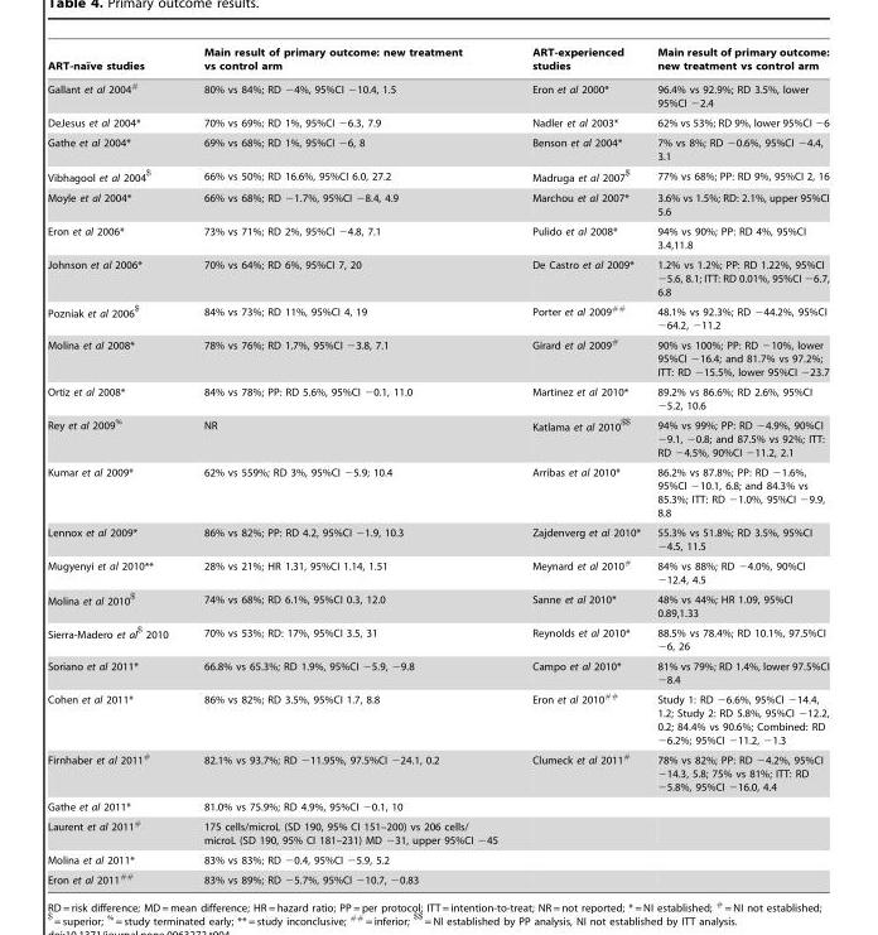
<table><thead><tr><td>ART-naı¨ve studies</td><td>Main result of primary outcome: new treatment vs control arm</td><td>ART-experienced studies</td><td>Main result of primary outcome: new treatment vs control arm</td></tr></thead><tbody><tr><td>Gallant et al 2004<sup>#</sup></td><td>80% vs 84%; RD −4%, 95%CI −10.4, 1.5</td><td>Eron et al 2000*</td><td>96.4% vs 92.9%; RD 3.5%, lower 95%CI −2.4</td></tr><tr><td>DeJesus et al 2004*</td><td>70% vs 69%; RD 1%, 95%CI −6.3, 7.9</td><td>Nadler et al 2003*</td><td>62% vs 53%; RD 9%, lower 95%CI −6</td></tr><tr><td>Gathe et al 2004*</td><td>69% vs 68%; RD 1%, 95%CI −6, 8</td><td>Benson et al 2004*</td><td>7% vs 8%; RD −0.6%, 95%CI −4.4, 3.1</td></tr><tr><td>Vibhagool et al 2004<sup>$</sup></td><td>66% vs 50%; RD 16.6%, 95%CI 6.0, 27.2</td><td>Madruga et al 2007<sup>$</sup></td><td>77% vs 68%; PP: RD 9%, 95%CI 2, 16</td></tr><tr><td>Moyle et al 2004*</td><td>66% vs 68%; RD −1.7%, 95%CI −8.4, 4.9</td><td>Marchou et al 2007*</td><td>3.6% vs 1.5%; RD: 2.1%, upper 95%CI 5.6</td></tr><tr><td>Eron et al 2006*</td><td>73% vs 71%; RD 2%, 95%CI −4.8, 7.1</td><td>Pulido et al 2008*</td><td>94% vs 90%; PP: RD 4%, 95%CI 3.4,11.8</td></tr><tr><td>Johnson et al 2006*</td><td>70% vs 64%; RD 6%, 95%CI 7, 20</td><td>De Castro et al 2009*</td><td>1.2% vs 1.2%; PP: RD 1.22%, 95%CI −5.6, 8.1; ITT: RD 0.01%, 95%CI −6.7, 6.8</td></tr><tr><td>Pozniak et al 2006<sup>$</sup></td><td>84% vs 73%; RD 11%, 95%CI 4, 19</td><td>Porter et al 2009<sup>##</sup></td><td>48.1% vs 92.3%; RD −44.2%, 95%CI −64.2, −11.2</td></tr><tr><td>Molina et al 2008*</td><td>78% vs 76%; RD 1.7%, 95%CI −3.8, 7.1</td><td>Girard et al 2009<sup>#</sup></td><td>90% vs 100%; PP: RD −10%, lower 95%CI −16.4; and 81.7% vs 97.2%; ITT: RD −15.5%, lower 95%CI −23.7</td></tr><tr><td>Ortiz et al 2008*</td><td>84% vs 78%; PP: RD 5.6%, 95%CI −0.1, 11.0</td><td>Martinez et al 2010*</td><td>89.2% vs 86.6%; RD 2.6%, 95%CI −5.2, 10.6</td></tr><tr><td>Rey et al 2009<sup>%</sup></td><td>NR</td><td>Katlama et al 2010<sup>$$</sup></td><td>94% vs 99%; PP: RD −4.9%, 90%CI −9.1, −0.8; and 87.5% vs 92%; ITT: RD −4.5%, 90%CI −11.2, 2.1</td></tr><tr><td>Kumar et al 2009*</td><td>62% vs 559%; RD 3%, 95%CI −5.9; 10.4</td><td>Arribas et al 2010*</td><td>86.2% vs 87.8%; PP: RD −1.6%, 95%CI −10.1, 6.8; and 84.3% vs 85.3%; ITT: RD −1.0%, 95%CI −9.9, 8.8</td></tr><tr><td>Lennox et al 2009*</td><td>86% vs 82%; PP: RD 4.2, 95%CI −1.9, 10.3</td><td>Zajdenverg et al 2010*</td><td>55.3% vs 51.8%; RD 3.5%, 95%CI −4.5, 11.5</td></tr><tr><td>Mugyenyi et al 2010**</td><td>28% vs 21%; HR 1.31, 95%CI 1.14, 1.51</td><td>Meynard et al 2010<sup>#</sup></td><td>84% vs 88%; RD −4.0%, 90%CI −12.4, 4.5</td></tr><tr><td>Molina et al 2010<sup>$</sup></td><td>74% vs 68%; RD 6.1%, 95%CI 0.3, 12.0</td><td>Sanne et al 2010*</td><td>48% vs 44%; HR 1.09, 95%CI 0.89,1.33</td></tr><tr><td>Sierra-Madero et al<sup>$</sup> 2010</td><td>70% vs 53%; RD: 17%, 95%CI 3.5, 31</td><td>Reynolds et al 2010*</td><td>88.5% vs 78.4%; RD 10.1%, 97.5%CI −6, 26</td></tr><tr><td>Soriano et al 2011*</td><td>66.8% vs 65.3%; RD 1.9%, 95%CI −5.9, −9.8</td><td>Campo et al 2010*</td><td>81% vs 79%; RD 1.4%, lower 97.5%CI −8.4</td></tr><tr><td>Cohen et al 2011*</td><td>86% vs 82%; RD 3.5%, 95%CI 1.7, 8.8</td><td>Eron et al 2010<sup>##</sup></td><td>Study 1: RD −6.6%, 95%CI −14.4, 1.2; Study 2: RD 5.8%, 95%CI −12.2, 0.2; 84.4% vs 90.6%; Combined: RD −6.2%; 95%CI −11.2, −1.3</td></tr><tr><td>Firnhaber et al 2011<sup>#</sup></td><td>82.1% vs 93.7%; RD −11.95%, 97.5%CI −24.1, 0.2</td><td>Clumeck et al 2011<sup>#</sup></td><td>78% vs 82%; PP: RD −4.2%, 95%CI −14.3, 5.8; 75% vs 81%; ITT: RD −5.8%, 95%CI −16.0, 4.4</td></tr><tr><td>Gathe et al 2011*</td><td>81.0% vs 75.9%; RD 4.9%, 95%CI −0.1, 10</td><td></td><td></td></tr><tr><td>Laurent et al 2011<sup>#</sup></td><td>175 cells/microL (SD 190, 95% CI 151–200) vs 206 cells/ microL (SD 190, 95% CI 181–231) MD −31, upper 95%CI −45</td><td></td><td></td></tr><tr><td>Molina et al 2011*</td><td>83% vs 83%; RD −0.4, 95%CI −5.9, 5.2</td><td></td><td></td></tr><tr><td>Eron et al 2011<sup>##</sup></td><td>83% vs 89%; RD −5.7%, 95%CI −10.7, −0.83</td><td></td><td></td></tr></tbody></table>